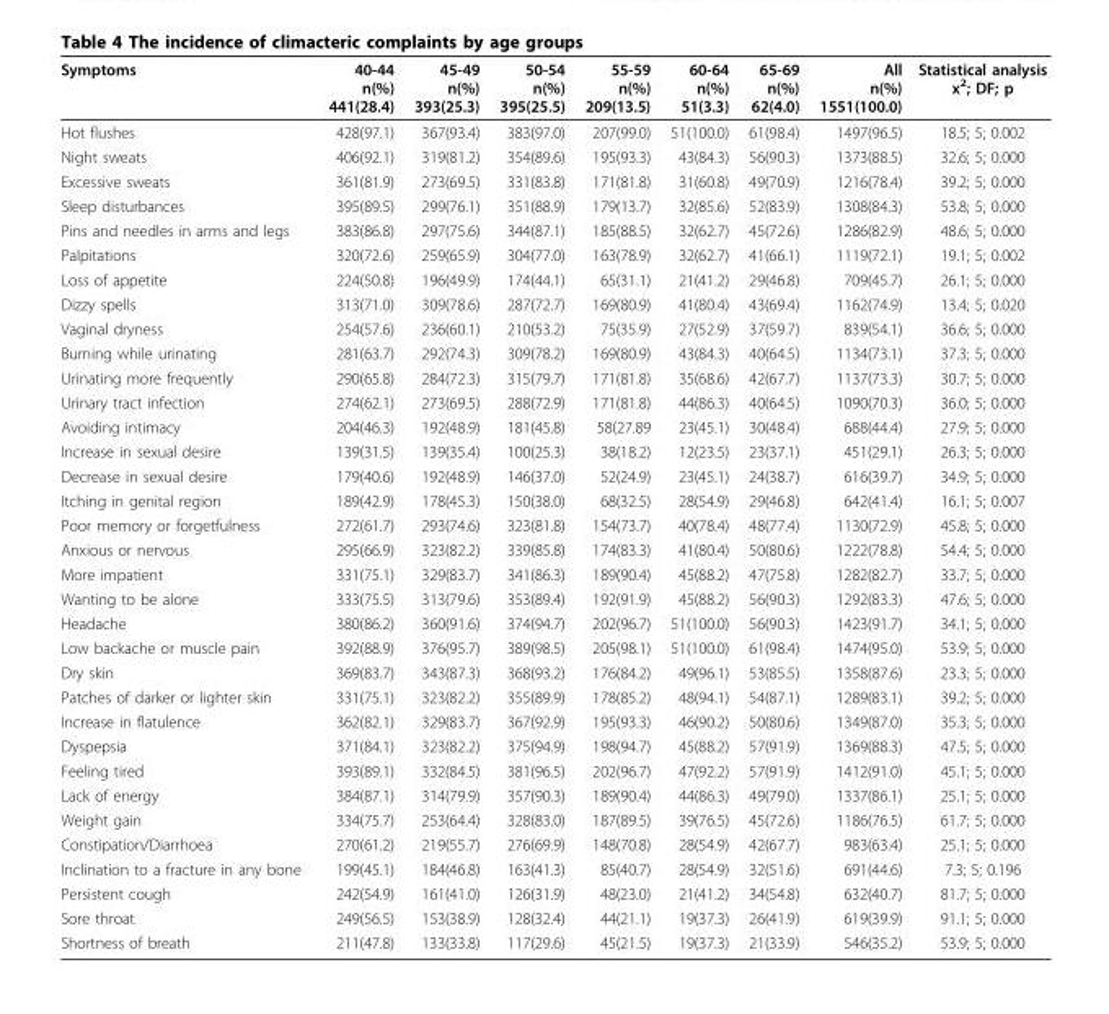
<table><thead><tr><td>Symptoms</td><td>40-44 n(%) 441(28.4)</td><td>45-49 n(%) 393(25.3)</td><td>50-54 n(%) 395(25.5)</td><td>55-59 n(%) 209(13.5)</td><td>60-64 n(%) 51(3.3)</td><td>65-69 n(%) 62(4.0)</td><td>All n(%) 1551(100.0)</td><td>Statistical analysis x<sup>2</sup>; DF; p</td></tr></thead><tbody><tr><td>Hot flushes</td><td>428(97.1)</td><td>367(93.4)</td><td>383(97.0)</td><td>207(99.0)</td><td>51(100.0)</td><td>61(98.4)</td><td>1497(96.5)</td><td>18.5; 5; 0.002</td></tr><tr><td>Night sweats</td><td>406(92.1)</td><td>319(81.2)</td><td>354(89.6)</td><td>195(93.3)</td><td>43(84.3)</td><td>56(90.3)</td><td>1373(88.5)</td><td>32.6; 5; 0.000</td></tr><tr><td>Excessive sweats</td><td>361(81.9)</td><td>273(69.5)</td><td>331(83.8)</td><td>171(81.8)</td><td>31(60.8)</td><td>49(70.9)</td><td>1216(78.4)</td><td>39.2; 5; 0.000</td></tr><tr><td>Sleep disturbances</td><td>395(89.5)</td><td>299(76.1)</td><td>351(88.9)</td><td>179(13.7)</td><td>32(85.6)</td><td>52(83.9)</td><td>1308(84.3)</td><td>53.8; 5; 0.000</td></tr><tr><td>Pins and needles in arms and legs</td><td>383(86.8)</td><td>297(75.6)</td><td>344(87.1)</td><td>185(88.5)</td><td>32(62.7)</td><td>45(72.6)</td><td>1286(82.9)</td><td>48.6; 5; 0.000</td></tr><tr><td>Palpitations</td><td>320(72.6)</td><td>259(65.9)</td><td>304(77.0)</td><td>163(78.9)</td><td>32(62.7)</td><td>41(66.1)</td><td>1119(72.1)</td><td>19.1; 5; 0.002</td></tr><tr><td>Loss of appetite</td><td>224(50.8)</td><td>196(49.9)</td><td>174(44.1)</td><td>65(31.1)</td><td>21(41.2)</td><td>29(46.8)</td><td>709(45.7)</td><td>26.1; 5; 0.000</td></tr><tr><td>Dizzy spells</td><td>313(71.0)</td><td>309(78.6)</td><td>287(72.7)</td><td>169(80.9)</td><td>41(80.4)</td><td>43(69.4)</td><td>1162(74.9)</td><td>13.4; 5; 0.020</td></tr><tr><td>Vaginal dryness</td><td>254(57.6)</td><td>236(60.1)</td><td>210(53.2)</td><td>75(35.9)</td><td>27(52.9)</td><td>37(59.7)</td><td>839(54.1)</td><td>36.6; 5; 0.000</td></tr><tr><td>Burning while urinating</td><td>281(63.7)</td><td>292(74.3)</td><td>309(78.2)</td><td>169(80.9)</td><td>43(84.3)</td><td>40(64.5)</td><td>1134(73.1)</td><td>37.3; 5; 0.000</td></tr><tr><td>Urinating more frequently</td><td>290(65.8)</td><td>284(72.3)</td><td>315(79.7)</td><td>171(81.8)</td><td>35(68.6)</td><td>42(67.7)</td><td>1137(73.3)</td><td>30.7; 5; 0.000</td></tr><tr><td>Urinary tract infection</td><td>274(62.1)</td><td>273(69.5)</td><td>288(72.9)</td><td>171(81.8)</td><td>44(86.3)</td><td>40(64.5)</td><td>1090(70.3)</td><td>36.0; 5; 0.000</td></tr><tr><td>Avoiding intimacy</td><td>204(46.3)</td><td>192(48.9)</td><td>181(45.8)</td><td>58(27.89</td><td>23(45.1)</td><td>30(48.4)</td><td>688(44.4)</td><td>27.9; 5; 0.000</td></tr><tr><td>Increase in sexual desire</td><td>139(31.5)</td><td>139(35.4)</td><td>100(25.3)</td><td>38(18.2)</td><td>12(23.5)</td><td>23(37.1)</td><td>451(29.1)</td><td>26.3; 5; 0.000</td></tr><tr><td>Decrease in sexual desire</td><td>179(40.6)</td><td>192(48.9)</td><td>146(37.0)</td><td>52(24.9)</td><td>23(45.1)</td><td>24(38.7)</td><td>616(39.7)</td><td>34.9; 5; 0.000</td></tr><tr><td>Itching in genital region</td><td>189(42.9)</td><td>178(45.3)</td><td>150(38.0)</td><td>68(32.5)</td><td>28(54.9)</td><td>29(46.8)</td><td>642(41.4)</td><td>16.1; 5; 0.007</td></tr><tr><td>Poor memory or forgetfulness</td><td>272(61.7)</td><td>293(74.6)</td><td>323(81.8)</td><td>154(73.7)</td><td>40(78.4)</td><td>48(77.4)</td><td>1130(72.9)</td><td>45.8; 5; 0.000</td></tr><tr><td>Anxious or nervous</td><td>295(66.9)</td><td>323(82.2)</td><td>339(85.8)</td><td>174(83.3)</td><td>41(80.4)</td><td>50(80.6)</td><td>1222(78.8)</td><td>54.4; 5; 0.000</td></tr><tr><td>More impatient</td><td>331(75.1)</td><td>329(83.7)</td><td>341(86.3)</td><td>189(90.4)</td><td>45(88.2)</td><td>47(75.8)</td><td>1282(82.7)</td><td>33.7; 5; 0.000</td></tr><tr><td>Wanting to be alone</td><td>333(75.5)</td><td>313(79.6)</td><td>353(89.4)</td><td>192(91.9)</td><td>45(88.2)</td><td>56(90.3)</td><td>1292(83.3)</td><td>47.6; 5; 0.000</td></tr><tr><td>Headache</td><td>380(86.2)</td><td>360(91.6)</td><td>374(94.7)</td><td>202(96.7)</td><td>51(100.0)</td><td>56(90.3)</td><td>1423(91.7)</td><td>34.1; 5; 0.000</td></tr><tr><td>Low backache or muscle pain</td><td>392(88.9)</td><td>376(95.7)</td><td>389(98.5)</td><td>205(98.1)</td><td>51(100.0)</td><td>61(98.4)</td><td>1474(95.0)</td><td>53.9; 5; 0.000</td></tr><tr><td>Dry skin</td><td>369(83.7)</td><td>343(87.3)</td><td>368(93.2)</td><td>176(84.2)</td><td>49(96.1)</td><td>53(85.5)</td><td>1358(87.6)</td><td>23.3; 5; 0.000</td></tr><tr><td>Patches of darker or lighter skin</td><td>331(75.1)</td><td>323(82.2)</td><td>355(89.9)</td><td>178(85.2)</td><td>48(94.1)</td><td>54(87.1)</td><td>1289(83.1)</td><td>39.2; 5; 0.000</td></tr><tr><td>Increase in flatulence</td><td>362(82.1)</td><td>329(83.7)</td><td>367(92.9)</td><td>195(93.3)</td><td>46(90.2)</td><td>50(80.6)</td><td>1349(87.0)</td><td>35.3; 5; 0.000</td></tr><tr><td>Dyspepsia</td><td>371(84.1)</td><td>323(82.2)</td><td>375(94.9)</td><td>198(94.7)</td><td>45(88.2)</td><td>57(91.9)</td><td>1369(88.3)</td><td>47.5; 5; 0.000</td></tr><tr><td>Feeling tired</td><td>393(89.1)</td><td>332(84.5)</td><td>381(96.5)</td><td>202(96.7)</td><td>47(92.2)</td><td>57(91.9)</td><td>1412(91.0)</td><td>45.1; 5; 0.000</td></tr><tr><td>Lack of energy</td><td>384(87.1)</td><td>314(79.9)</td><td>357(90.3)</td><td>189(90.4)</td><td>44(86.3)</td><td>49(79.0)</td><td>1337(86.1)</td><td>25.1; 5; 0.000</td></tr><tr><td>Weight gain</td><td>334(75.7)</td><td>253(64.4)</td><td>328(83.0)</td><td>187(89.5)</td><td>39(76.5)</td><td>45(72.6)</td><td>1186(76.5)</td><td>61.7; 5; 0.000</td></tr><tr><td>Constipation/Diarrhoea</td><td>270(61.2)</td><td>219(55.7)</td><td>276(69.9)</td><td>148(70.8)</td><td>28(54.9)</td><td>42(67.7)</td><td>983(63.4)</td><td>25.1; 5; 0.000</td></tr><tr><td>Inclination to a fracture in any bone</td><td>199(45.1)</td><td>184(46.8)</td><td>163(41.3)</td><td>85(40.7)</td><td>28(54.9)</td><td>32(51.6)</td><td>691(44.6)</td><td>7.3; 5; 0.196</td></tr><tr><td>Persistent cough</td><td>242(54.9)</td><td>161(41.0)</td><td>126(31.9)</td><td>48(23.0)</td><td>21(41.2)</td><td>34(54.8)</td><td>632(40.7)</td><td>81.7; 5; 0.000</td></tr><tr><td>Sore throat</td><td>249(56.5)</td><td>153(38.9)</td><td>128(32.4)</td><td>44(21.1)</td><td>19(37.3)</td><td>26(41.9)</td><td>619(39.9)</td><td>91.1; 5; 0.000</td></tr><tr><td>Shortness of breath</td><td>211(47.8)</td><td>133(33.8)</td><td>117(29.6)</td><td>45(21.5)</td><td>19(37.3)</td><td>21(33.9)</td><td>546(35.2)</td><td>53.9; 5; 0.000</td></tr></tbody></table>